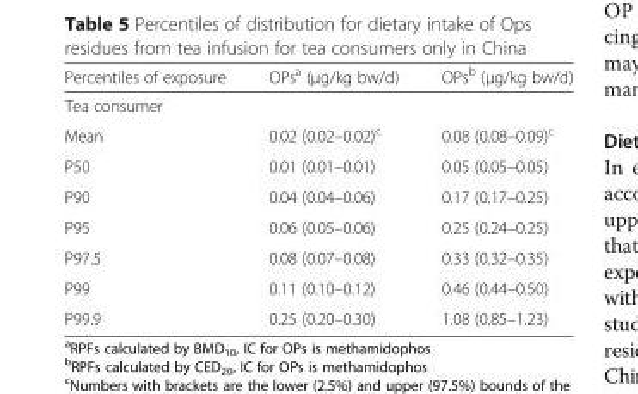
<table><thead><tr><td>Percentiles of exposure</td><td>OPs<sup>a</sup> (μg/kg bw/d)</td><td>OPs<sup>b</sup> (μg/kg bw/d)</td></tr></thead><tbody><tr><td colspan="3">Tea consumer</td></tr><tr><td>Mean</td><td>0.02 (0.02–0.02)<sup>c</sup></td><td>0.08 (0.08–0.09)<sup>c</sup></td></tr><tr><td>P50</td><td>0.01 (0.01–0.01)</td><td>0.05 (0.05–0.05)</td></tr><tr><td>P90</td><td>0.04 (0.04–0.06)</td><td>0.17 (0.17–0.25)</td></tr><tr><td>P95</td><td>0.06 (0.05–0.06)</td><td>0.25 (0.24–0.25)</td></tr><tr><td>P97.5</td><td>0.08 (0.07–0.08)</td><td>0.33 (0.32–0.35)</td></tr><tr><td>P99</td><td>0.11 (0.10–0.12)</td><td>0.46 (0.44–0.50)</td></tr><tr><td>P99.9</td><td>0.25 (0.20–0.30)</td><td>1.08 (0.85–1.23)</td></tr></tbody></table>